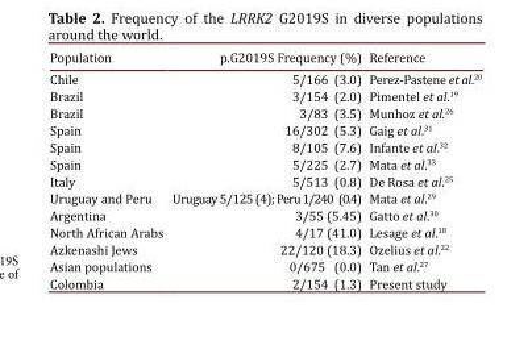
<table><tbody><tr><td>Population</td><td>p.G2019S Frequency (%)</td><td>Reference</td></tr><tr><td>Chile</td><td>5/166 (3.0)</td><td>Perez-Pastene et al.<sup>20</sup></td></tr><tr><td>Brazil</td><td>3/154 (2.0)</td><td>Pimentel et al.<sup>19</sup></td></tr><tr><td>Brazil</td><td>3/83 (3.5)</td><td>Munhoz et al.<sup>26</sup></td></tr><tr><td>Spain</td><td>16/302 (5.3)</td><td>Gaig et al.<sup>31</sup></td></tr><tr><td>Spain</td><td>8/105 (7.6)</td><td>Infante et al.<sup>32</sup></td></tr><tr><td>Spain</td><td>5/225 (2.7)</td><td>Mata et al.<sup>33</sup></td></tr><tr><td>Italy</td><td>5/513 (0.8)</td><td>De Rosa et al.<sup>25</sup></td></tr><tr><td>Uruguay and Peru</td><td>Uruguay 5/125 (4); Peru 1/240 (0.4)</td><td>Mata et al.<sup>29</sup></td></tr><tr><td>Argentina</td><td>3/55 (5.45)</td><td>Gatto et al.<sup>30</sup></td></tr><tr><td>North African Arabs</td><td>4/17 (41.0)</td><td>Lesage et al.<sup>18</sup></td></tr><tr><td>Azkenashi Jews</td><td>22/120 (18.3)</td><td>Ozelius et al.<sup>22</sup></td></tr><tr><td>Asian populations</td><td>0/675 (0.0)</td><td>Tan et al.<sup>27</sup></td></tr><tr><td>Colombia</td><td>2/154 (1.3)</td><td>Present study</td></tr></tbody></table>